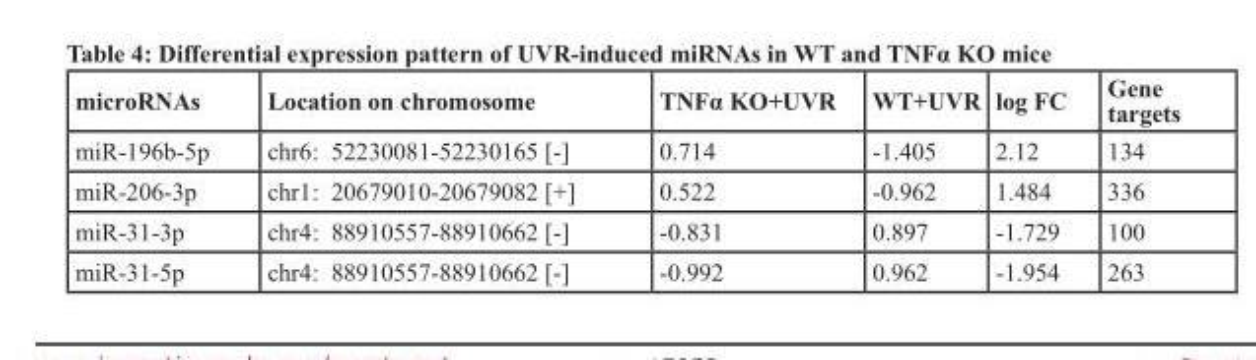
<table><thead><tr><td>microRNAs</td><td>Location on chromosome</td><td>TNFα KO+UVR</td><td>WT+UVR</td><td>log FC</td><td>Gene targets</td></tr></thead><tbody><tr><td>miR-196b-5p</td><td>chr6: 52230081-52230165 [-]</td><td>0.714</td><td>-1.405</td><td>2.12</td><td>134</td></tr><tr><td>miR-206-3p</td><td>chr1: 20679010-20679082 [+]</td><td>0.522</td><td>-0.962</td><td>1.484</td><td>336</td></tr><tr><td>miR-31-3p</td><td>chr4: 88910557-88910662 [-]</td><td>-0.831</td><td>0.897</td><td>-1.729</td><td>100</td></tr><tr><td>miR-31-5p</td><td>chr4: 88910557-88910662 [-]</td><td>-0.992</td><td>0.962</td><td>-1.954</td><td>263</td></tr></tbody></table>